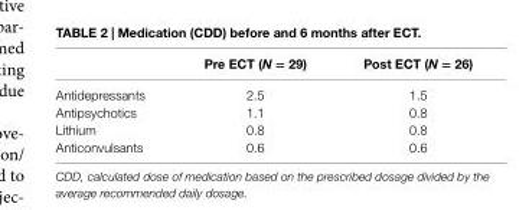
<table><thead><tr><td></td><td>Pre ecT (N = 29)</td><td>Post ecT (N = 26)</td></tr></thead><tbody><tr><td>Antidepressants</td><td>2.5</td><td>1.5</td></tr><tr><td>Antipsychotics</td><td>1.1</td><td>0.8</td></tr><tr><td>Lithium</td><td>0.8</td><td>0.8</td></tr><tr><td>Anticonvulsants</td><td>0.6</td><td>0.6</td></tr></tbody></table>